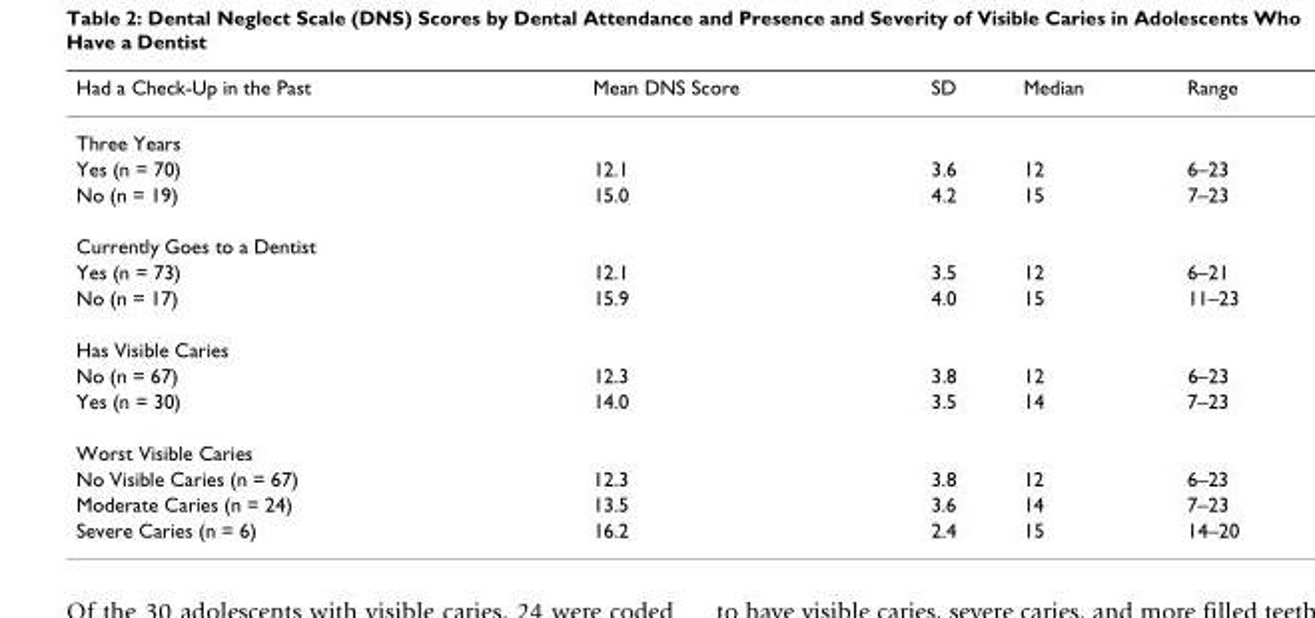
<table><thead><tr><td>Had a Check-Up in the Past</td><td>Mean DNS Score</td><td>SD</td><td>Median</td><td>Range</td></tr></thead><tbody><tr><td colspan="5">Three Years</td></tr><tr><td>Yes (n = 70)</td><td>12.1</td><td>3.6</td><td>12</td><td>6–23</td></tr><tr><td>No (n = 19)</td><td>15.0</td><td>4.2</td><td>15</td><td>7–23</td></tr><tr><td colspan="5">Currently Goes to a Dentist</td></tr><tr><td>Yes (n = 73)</td><td>12.1</td><td>3.5</td><td>12</td><td>6–21</td></tr><tr><td>No (n = 17)</td><td>15.9</td><td>4.0</td><td>15</td><td>11–23</td></tr><tr><td colspan="5">Has Visible Caries</td></tr><tr><td>No (n = 67)</td><td>12.3</td><td>3.8</td><td>12</td><td>6–23</td></tr><tr><td>Yes (n = 30)</td><td>14.0</td><td>3.5</td><td>14</td><td>7–23</td></tr><tr><td colspan="5">Worst Visible Caries</td></tr><tr><td>No Visible Caries (n = 67)</td><td>12.3</td><td>3.8</td><td>12</td><td>6–23</td></tr><tr><td>Moderate Caries (n = 24)</td><td>13.5</td><td>3.6</td><td>14</td><td>7–23</td></tr><tr><td>Severe Caries (n = 6)</td><td>16.2</td><td>2.4</td><td>15</td><td>14–20</td></tr></tbody></table>